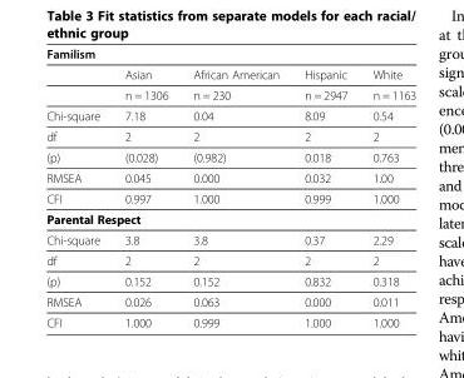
<table><thead><tr><td colspan="5">Familism</td></tr><tr><td></td><td>Asian</td><td>African American</td><td>Hispanic</td><td>White</td></tr></thead><tbody><tr><td></td><td>n = 1306</td><td>n = 230</td><td>n = 2947</td><td>n = 1163</td></tr><tr><td>Chi-square</td><td>7.18</td><td>0.04</td><td>8.09</td><td>0.54</td></tr><tr><td>df</td><td>2</td><td>2</td><td>2</td><td>2</td></tr><tr><td>(p)</td><td>(0.028)</td><td>(0.982)</td><td>0.018</td><td>0.763</td></tr><tr><td>RMSEA</td><td>0.045</td><td>0.000</td><td>0.032</td><td>1.00</td></tr><tr><td>CFI</td><td>0.997</td><td>1.000</td><td>0.999</td><td>1.000</td></tr><tr><td colspan="5">Parental Respect</td></tr><tr><td>Chi-square</td><td>3.8</td><td>3.8</td><td>0.37</td><td>2.29</td></tr><tr><td>df</td><td>2</td><td>2</td><td>2</td><td>2</td></tr><tr><td>(p)</td><td>0.152</td><td>0.152</td><td>0.832</td><td>0.318</td></tr><tr><td>RMSEA</td><td>0.026</td><td>0.063</td><td>0.000</td><td>0.011</td></tr><tr><td>CFI</td><td>1.000</td><td>0.999</td><td>1.000</td><td>1.000</td></tr></tbody></table>